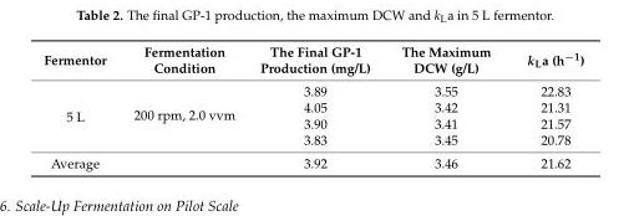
<table><thead><tr><td>Fermentor</td><td>Fermentation Condition</td><td>The Final GP-1 Production (mg/L)</td><td>The Maximum DCW (g/L)</td><td>k<sub>L</sub>a (h<sup>−1</sup>)</td></tr></thead><tbody><tr><td rowspan="4">5 L</td><td rowspan="4">200 rpm, 2.0 vvm</td><td>3.89</td><td>3.55</td><td>22.83</td></tr><tr><td>4.05</td><td>3.42</td><td>21.31</td></tr><tr><td>3.90</td><td>3.41</td><td>21.57</td></tr><tr><td>3.83</td><td>3.45</td><td>20.78</td></tr><tr><td>Average</td><td></td><td>3.92</td><td>3.46</td><td>21.62</td></tr></tbody></table>